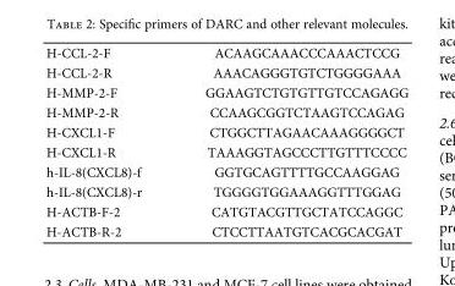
<table><tbody><tr><td>H-CCL-2-F</td><td>ACAAGCAAACCCAAACTCCG</td></tr><tr><td>H-CCL-2-R</td><td>AAACAGGGTGTCTGGGGAAA</td></tr><tr><td>H-MMP-2-F</td><td>GGAAGTCTGTGTTGTCCAGAGG</td></tr><tr><td>H-MMP-2-R</td><td>CCAAGCGGTCTAAGTCCAGAG</td></tr><tr><td>H-CXCL1-F</td><td>CTGGCTTAGAACAAAGGGGCT</td></tr><tr><td>H-CXCL1-R</td><td>TAAAGGTAGCCCTTGTTTCCCC</td></tr><tr><td>h-IL-8(CXCL8)-f</td><td>GGTGCAGTTTTGCCAAGGAG</td></tr><tr><td>h-IL-8(CXCL8)-r</td><td>TGGGGTGGAAAGGTTTGGAG</td></tr><tr><td>H-ACTB-F-2</td><td>CATGTACGTTGCTATCCAGGC</td></tr><tr><td>H-ACTB-R-2</td><td>CTCCTTAATGTCACGCACGAT</td></tr></tbody></table>